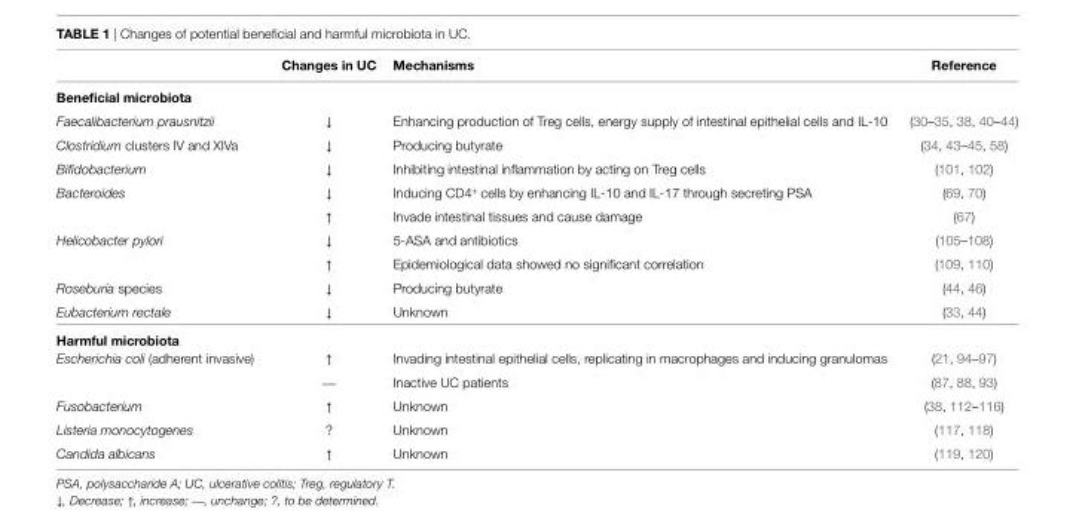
<table><thead><tr><td></td><td>Changes in UC</td><td>Mechanisms</td><td>Reference</td></tr></thead><tbody><tr><td colspan="4">beneficial microbiota</td></tr><tr><td>Faecalibacterium prausnitzii</td><td>↓</td><td>Enhancing production of Treg cells, energy supply of intestinal epithelial cells and IL-10</td><td>(30–35, 38, 40–44)</td></tr><tr><td>Clostridium clusters IV and XIVa</td><td>↓</td><td>Producing butyrate</td><td>(34, 43–45, 58)</td></tr><tr><td>Bifidobacterium</td><td>↓</td><td>Inhibiting intestinal inflammation by acting on Treg cells</td><td>(101, 102)</td></tr><tr><td rowspan="2">Bacteroides</td><td>↓</td><td>Inducing CD4<sup>+</sup> cells by enhancing IL-10 and IL-17 through secreting PSA</td><td>(69, 70)</td></tr><tr><td>↑</td><td>Invade intestinal tissues and cause damage</td><td>(67)</td></tr><tr><td rowspan="2">Helicobacter pylori</td><td>↓</td><td>5-ASA and antibiotics</td><td>(105–108)</td></tr><tr><td>↑</td><td>Epidemiological data showed no significant correlation</td><td>(109, 110)</td></tr><tr><td>Roseburia species</td><td>↓</td><td>Producing butyrate</td><td>(44, 46)</td></tr><tr><td>Eubacterium rectale</td><td>↓</td><td>Unknown</td><td>(33, 44)</td></tr><tr><td colspan="4">Harmful microbiota</td></tr><tr><td rowspan="2">Escherichia coli (adherent invasive)</td><td>↑</td><td>Invading intestinal epithelial cells, replicating in macrophages and inducing granulomas</td><td>(21, 94–97)</td></tr><tr><td>—</td><td>Inactive UC patients</td><td>(87, 88, 93)</td></tr><tr><td>Fusobacterium</td><td>↑</td><td>Unknown</td><td>(38, 112–116)</td></tr><tr><td>Listeria monocytogenes</td><td>?</td><td>Unknown</td><td>(117, 118)</td></tr><tr><td>Candida albicans</td><td>↑</td><td>Unknown</td><td>(119, 120)</td></tr></tbody></table>